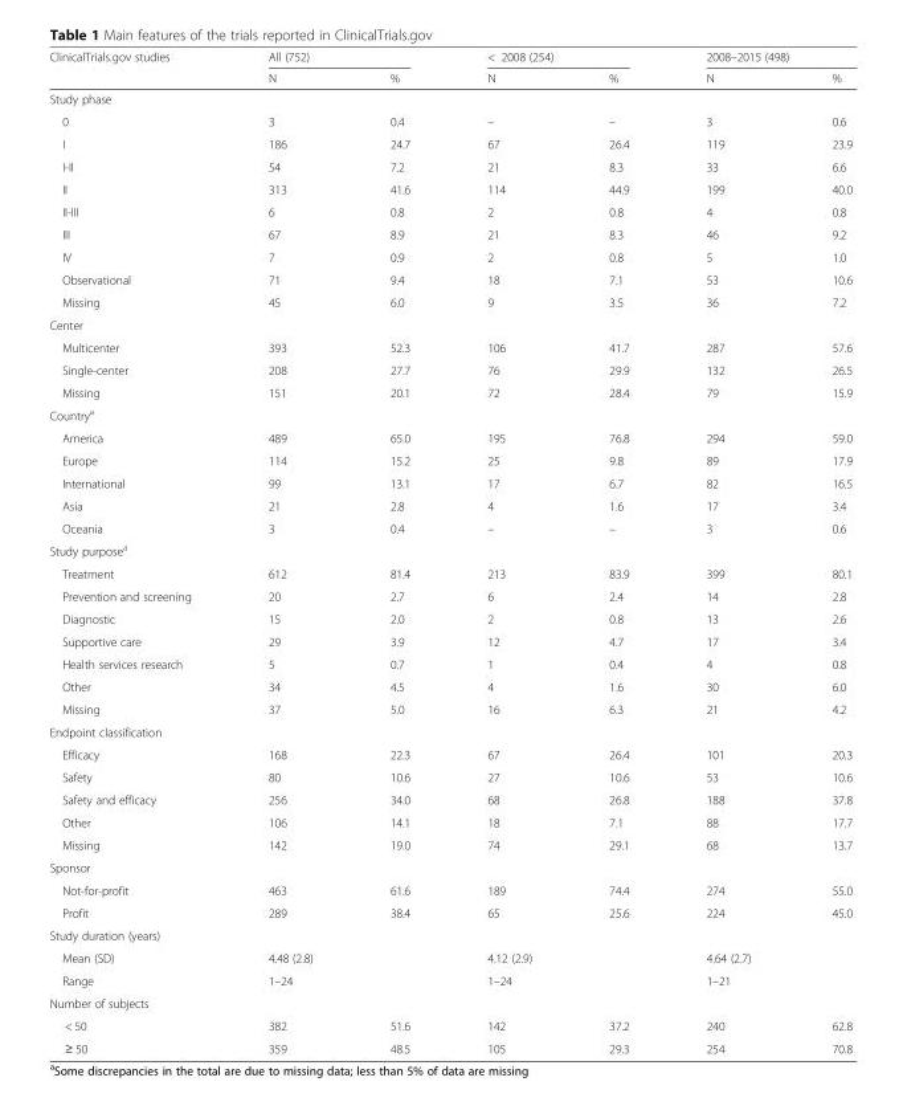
<table><thead><tr><td rowspan="2">ClinicalTrials.gov studies</td><td colspan="2">All (752)</td><td colspan="2">&lt; 2008 (254)</td><td colspan="2">2008–2015 (498)</td></tr><tr><td>N</td><td>%</td><td>N</td><td>%</td><td>N</td><td>%</td></tr></thead><tbody><tr><td colspan="7">Study phase</td></tr><tr><td>0</td><td>3</td><td>0.4</td><td>–</td><td>–</td><td>3</td><td>0.6</td></tr><tr><td>I</td><td>186</td><td>24.7</td><td>67</td><td>26.4</td><td>119</td><td>23.9</td></tr><tr><td>I-II</td><td>54</td><td>7.2</td><td>21</td><td>8.3</td><td>33</td><td>6.6</td></tr><tr><td>II</td><td>313</td><td>41.6</td><td>114</td><td>44.9</td><td>199</td><td>40.0</td></tr><tr><td>II-III</td><td>6</td><td>0.8</td><td>2</td><td>0.8</td><td>4</td><td>0.8</td></tr><tr><td>III</td><td>67</td><td>8.9</td><td>21</td><td>8.3</td><td>46</td><td>9.2</td></tr><tr><td>IV</td><td>7</td><td>0.9</td><td>2</td><td>0.8</td><td>5</td><td>1.0</td></tr><tr><td>Observational</td><td>71</td><td>9.4</td><td>18</td><td>7.1</td><td>53</td><td>10.6</td></tr><tr><td>Missing</td><td>45</td><td>6.0</td><td>9</td><td>3.5</td><td>36</td><td>7.2</td></tr><tr><td colspan="7">Center</td></tr><tr><td>Multicenter</td><td>393</td><td>52.3</td><td>106</td><td>41.7</td><td>287</td><td>57.6</td></tr><tr><td>Single-center</td><td>208</td><td>27.7</td><td>76</td><td>29.9</td><td>132</td><td>26.5</td></tr><tr><td>Missing</td><td>151</td><td>20.1</td><td>72</td><td>28.4</td><td>79</td><td>15.9</td></tr><tr><td colspan="7">Country<sup>a</sup></td></tr><tr><td>America</td><td>489</td><td>65.0</td><td>195</td><td>76.8</td><td>294</td><td>59.0</td></tr><tr><td>Europe</td><td>114</td><td>15.2</td><td>25</td><td>9.8</td><td>89</td><td>17.9</td></tr><tr><td>International</td><td>99</td><td>13.1</td><td>17</td><td>6.7</td><td>82</td><td>16.5</td></tr><tr><td>Asia</td><td>21</td><td>2.8</td><td>4</td><td>1.6</td><td>17</td><td>3.4</td></tr><tr><td>Oceania</td><td>3</td><td>0.4</td><td>–</td><td>–</td><td>3</td><td>0.6</td></tr><tr><td colspan="7">Study purpose<sup>a</sup></td></tr><tr><td>Treatment</td><td>612</td><td>81.4</td><td>213</td><td>83.9</td><td>399</td><td>80.1</td></tr><tr><td>Prevention and screening</td><td>20</td><td>2.7</td><td>6</td><td>2.4</td><td>14</td><td>2.8</td></tr><tr><td>Diagnostic</td><td>15</td><td>2.0</td><td>2</td><td>0.8</td><td>13</td><td>2.6</td></tr><tr><td>Supportive care</td><td>29</td><td>3.9</td><td>12</td><td>4.7</td><td>17</td><td>3.4</td></tr><tr><td>Health services research</td><td>5</td><td>0.7</td><td>1</td><td>0.4</td><td>4</td><td>0.8</td></tr><tr><td>Other</td><td>34</td><td>4.5</td><td>4</td><td>1.6</td><td>30</td><td>6.0</td></tr><tr><td>Missing</td><td>37</td><td>5.0</td><td>16</td><td>6.3</td><td>21</td><td>4.2</td></tr><tr><td colspan="7">Endpoint classification</td></tr><tr><td>Efficacy</td><td>168</td><td>22.3</td><td>67</td><td>26.4</td><td>101</td><td>20.3</td></tr><tr><td>Safety</td><td>80</td><td>10.6</td><td>27</td><td>10.6</td><td>53</td><td>10.6</td></tr><tr><td>Safety and efficacy</td><td>256</td><td>34.0</td><td>68</td><td>26.8</td><td>188</td><td>37.8</td></tr><tr><td>Other</td><td>106</td><td>14.1</td><td>18</td><td>7.1</td><td>88</td><td>17.7</td></tr><tr><td>Missing</td><td>142</td><td>19.0</td><td>74</td><td>29.1</td><td>68</td><td>13.7</td></tr><tr><td colspan="7">Sponsor</td></tr><tr><td>Not-for-profit</td><td>463</td><td>61.6</td><td>189</td><td>74.4</td><td>274</td><td>55.0</td></tr><tr><td>Profit</td><td>289</td><td>38.4</td><td>65</td><td>25.6</td><td>224</td><td>45.0</td></tr><tr><td colspan="7">Study duration (years)</td></tr><tr><td>Mean (SD)</td><td>4.48 (2.8)</td><td></td><td>4.12 (2.9)</td><td></td><td>4.64 (2.7)</td><td></td></tr><tr><td>Range</td><td>1–24</td><td></td><td>1–24</td><td></td><td>1–21</td><td></td></tr><tr><td colspan="7">Number of subjects</td></tr><tr><td>&lt; 50</td><td>382</td><td>51.6</td><td>142</td><td>37.2</td><td>240</td><td>62.8</td></tr><tr><td>≥ 50</td><td>359</td><td>48.5</td><td>105</td><td>29.3</td><td>254</td><td>70.8</td></tr></tbody></table>